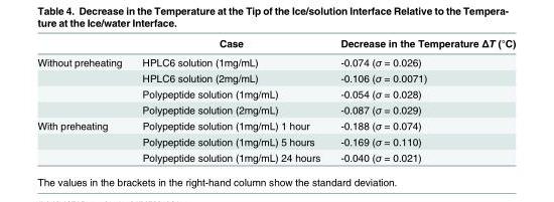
<table><thead><tr><td></td><td>Case</td><td>Decrease in the Temperature ΔT (°C)</td></tr></thead><tbody><tr><td rowspan="4">Without preheating</td><td>HPLC6 solution (1mg/mL)</td><td>-0.074 (σ = 0.026)</td></tr><tr><td>HPLC6 solution (2mg/mL)</td><td>-0.106 (σ = 0.0071)</td></tr><tr><td>Polypeptide solution (1mg/mL)</td><td>-0.054 (σ = 0.028)</td></tr><tr><td>Polypeptide solution (2mg/mL)</td><td>-0.087 (σ = 0.029)</td></tr><tr><td rowspan="3">With preheating</td><td>Polypeptide solution (1mg/mL) 1 hour</td><td>-0.188 (σ = 0.074)</td></tr><tr><td>Polypeptide solution (1mg/mL) 5 hours</td><td>-0.169 (σ = 0.110)</td></tr><tr><td>Polypeptide solution (1mg/mL) 24 hours</td><td>-0.040 (σ = 0.021)</td></tr></tbody></table>